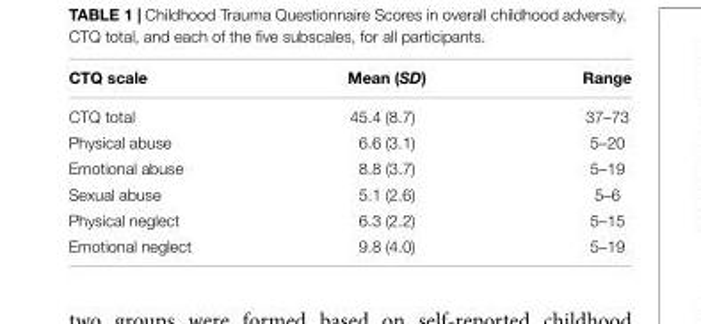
<table><thead><tr><td>CTQ scale</td><td>Mean (SD)</td><td>Range</td></tr></thead><tbody><tr><td>CTQ total</td><td>45.4 (8.7)</td><td>37–73</td></tr><tr><td>Physical abuse</td><td>6.6 (3.1)</td><td>5–20</td></tr><tr><td>Emotional abuse</td><td>8.8 (3.7)</td><td>5–19</td></tr><tr><td>Sexual abuse</td><td>5.1 (2.6)</td><td>5–6</td></tr><tr><td>Physical neglect</td><td>6.3 (2.2)</td><td>5–15</td></tr><tr><td>Emotional neglect</td><td>9.8 (4.0)</td><td>5–19</td></tr></tbody></table>